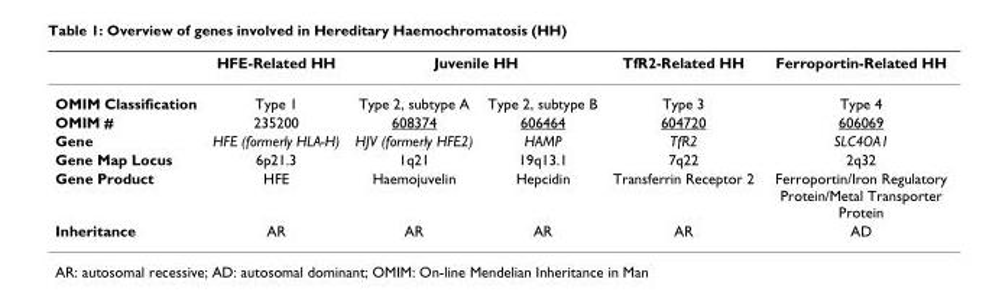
<table><thead><tr><td rowspan="2">OMIM Classification</td><td rowspan="2">HFE-Related HH Type 1</td><td colspan="2">Juvenile HH</td><td rowspan="2">TfR2-Related HH Type 3</td><td rowspan="2">Ferroportin-Related HH Type 4</td></tr><tr><td>Type 2, subtype A</td><td>Type 2, subtype B</td></tr></thead><tbody><tr><td>OMIM #</td><td>235200</td><td>608374</td><td>606464</td><td>604720</td><td>606069</td></tr><tr><td>Gene</td><td>HFE (formerly HLA-H)</td><td>HJV (formerly HFE2)</td><td>HAMP</td><td>TfR2</td><td>SLC4OA1</td></tr><tr><td>Gene Map Locus</td><td>6p21.3</td><td>1q21</td><td>19q13.1</td><td>7q22</td><td>2q32</td></tr><tr><td>Gene Product</td><td>HFE</td><td>Haemojuvelin</td><td>Hepcidin</td><td>Transferrin Receptor 2</td><td>Ferroportin/Iron Regulatory Protein/Metal Transporter Protein</td></tr><tr><td>Inheritance</td><td>AR</td><td>AR</td><td>AR</td><td>AR</td><td>AD</td></tr></tbody></table>